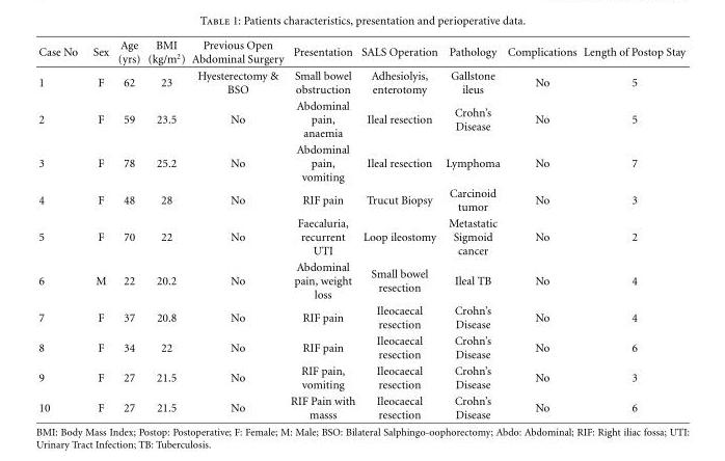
<table><thead><tr><td>Case No</td><td>Sex</td><td>Age (yrs)</td><td>BMI (kg/m<sup>2</sup>)</td><td>Previous Open Abdominal Surgery</td><td>Presentation</td><td>SALS Operation</td><td>Pathology</td><td>Complications</td><td>Length of Postop Stay</td></tr></thead><tbody><tr><td>1</td><td>F</td><td>62</td><td>23</td><td>Hyesterectomy &amp; BSO</td><td>Small bowel obstruction</td><td>Adhesiolyis, enterotomy</td><td>Gallstone ileus</td><td>No</td><td>5</td></tr><tr><td>2</td><td>F</td><td>59</td><td>23.5</td><td>No</td><td>Abdominal pain, anaemia</td><td>Ileal resection</td><td>Crohn’s Disease</td><td>No</td><td>5</td></tr><tr><td>3</td><td>F</td><td>78</td><td>25.2</td><td>No</td><td>Abdominal pain, vomiting</td><td>Ileal resection</td><td>Lymphoma</td><td>No</td><td>7</td></tr><tr><td>4</td><td>F</td><td>48</td><td>28</td><td>No</td><td>RIF pain</td><td>Trucut Biopsy</td><td>Carcinoid tumor</td><td>No</td><td>3</td></tr><tr><td>5</td><td>F</td><td>70</td><td>22</td><td>No</td><td>Faecaluria, recurrent UTI</td><td>Loop ileostomy</td><td>Metastatic Sigmoid cancer</td><td>No</td><td>2</td></tr><tr><td>6</td><td>M</td><td>22</td><td>20.2</td><td>No</td><td>Abdominal pain, weight loss</td><td>Small bowel resection</td><td>Ileal TB</td><td>No</td><td>4</td></tr><tr><td>7</td><td>F</td><td>37</td><td>20.8</td><td>No</td><td>RIF pain</td><td>Ileocaecal resection</td><td>Crohn’s Disease</td><td>No</td><td>4</td></tr><tr><td>8</td><td>F</td><td>34</td><td>22</td><td>No</td><td>RIF pain</td><td>Ileocaecal resection</td><td>Crohn’s Disease</td><td>No</td><td>6</td></tr><tr><td>9</td><td>F</td><td>27</td><td>21.5</td><td>No</td><td>RIF pain, vomiting</td><td>Ileocaecal resection</td><td>Crohn’s Disease</td><td>No</td><td>3</td></tr><tr><td>10</td><td>F</td><td>27</td><td>21.5</td><td>No</td><td>RIF Pain with masss</td><td>Ileocaecal resection</td><td>Crohn’s Disease</td><td>No</td><td>6</td></tr></tbody></table>